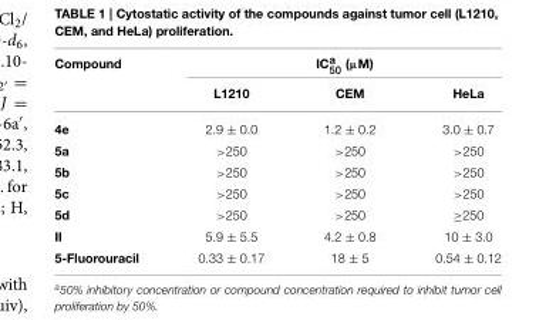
<table><thead><tr><td rowspan="2">Compound</td><td colspan="3">IC<sup>a</sup> <sub>50</sub> (µM)</td></tr><tr><td>L1210</td><td>CEM</td><td>HeLa</td></tr></thead><tbody><tr><td>4e</td><td>2.9 ± 0.0</td><td>1.2 ± 0.2</td><td>3.0 ± 0.7</td></tr><tr><td>5a</td><td>&gt;250</td><td>&gt;250</td><td>&gt;250</td></tr><tr><td>5b</td><td>&gt;250</td><td>&gt;250</td><td>&gt;250</td></tr><tr><td>5c</td><td>&gt;250</td><td>&gt;250</td><td>&gt;250</td></tr><tr><td>5d</td><td>&gt;250</td><td>&gt;250</td><td>≥250</td></tr><tr><td>II</td><td>5.9 ± 5.5</td><td>4.2 ± 0.8</td><td>10 ± 3.0</td></tr><tr><td>5-Fluorouracil</td><td>0.33 ± 0.17</td><td>18 ± 5</td><td>0.54 ± 0.12</td></tr></tbody></table>